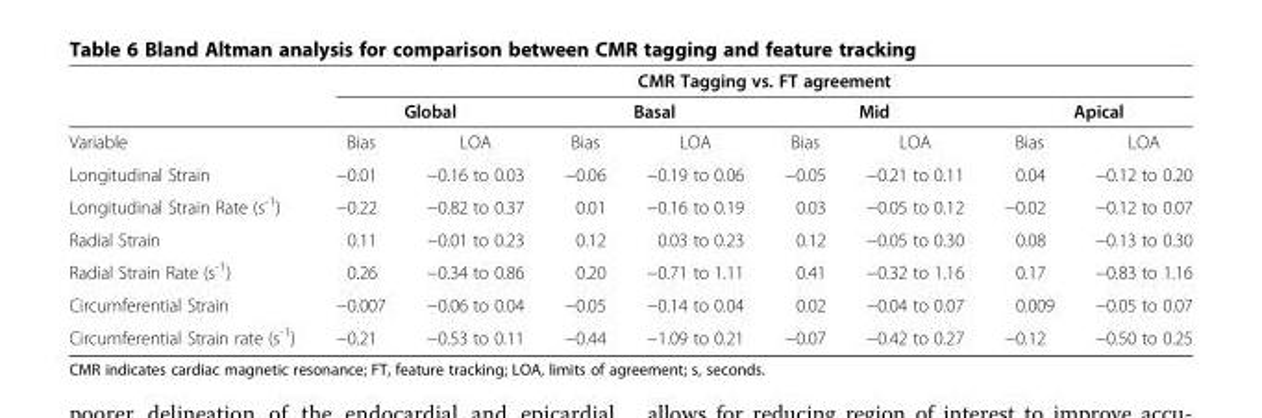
<table><thead><tr><td rowspan="3">Variable</td><td colspan="8">CMR Tagging vs. FT agreement</td></tr><tr><td colspan="2">Global</td><td colspan="2">Basal</td><td colspan="2">Mid</td><td colspan="2">Apical</td></tr><tr><td>Bias</td><td>LOA</td><td>Bias</td><td>LOA</td><td>Bias</td><td>LOA</td><td>Bias</td><td>LOA</td></tr></thead><tbody><tr><td>Longitudinal Strain</td><td>−0.01</td><td>−0.16 to 0.03</td><td>−0.06</td><td>−0.19 to 0.06</td><td>−0.05</td><td>−0.21 to 0.11</td><td>0.04</td><td>−0.12 to 0.20</td></tr><tr><td>Longitudinal Strain Rate (s<sup>-1</sup>)</td><td>−0.22</td><td>−0.82 to 0.37</td><td>0.01</td><td>−0.16 to 0.19</td><td>0.03</td><td>−0.05 to 0.12</td><td>−0.02</td><td>−0.12 to 0.07</td></tr><tr><td>Radial Strain</td><td>0.11</td><td>−0.01 to 0.23</td><td>0.12</td><td>0.03 to 0.23</td><td>0.12</td><td>−0.05 to 0.30</td><td>0.08</td><td>−0.13 to 0.30</td></tr><tr><td>Radial Strain Rate (s<sup>-1</sup>)</td><td>0.26</td><td>−0.34 to 0.86</td><td>0.20</td><td>−0.71 to 1.11</td><td>0.41</td><td>−0.32 to 1.16</td><td>0.17</td><td>−0.83 to 1.16</td></tr><tr><td>Circumferential Strain</td><td>−0.007</td><td>−0.06 to 0.04</td><td>−0.05</td><td>−0.14 to 0.04</td><td>0.02</td><td>−0.04 to 0.07</td><td>0.009</td><td>−0.05 to 0.07</td></tr><tr><td>Circumferential Strain rate (s<sup>-1</sup>)</td><td>−0.21</td><td>−0.53 to 0.11</td><td>−0.44</td><td>−1.09 to 0.21</td><td>−0.07</td><td>−0.42 to 0.27</td><td>−0.12</td><td>−0.50 to 0.25</td></tr></tbody></table>